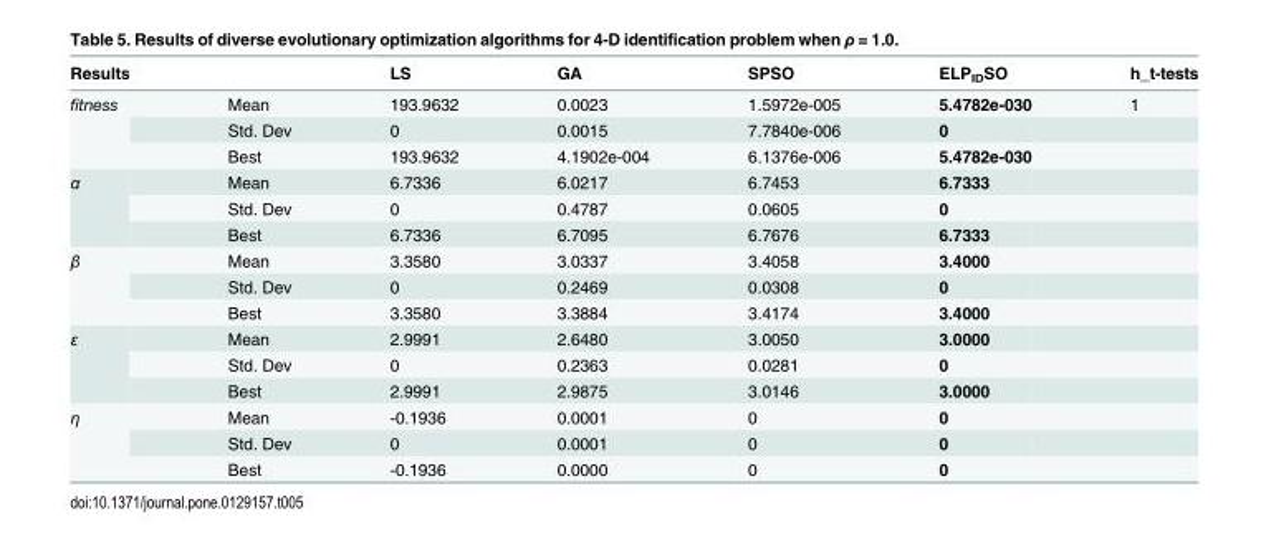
<table><thead><tr><td>Results</td><td></td><td>LS</td><td>GA</td><td>SPSO</td><td>ELP<sub>ID</sub>SO</td><td>h_t-tests</td></tr></thead><tbody><tr><td rowspan="3">fitness</td><td>Mean</td><td>193.9632</td><td>0.0023</td><td>1.5972e-005</td><td>5.4782e-030</td><td>1</td></tr><tr><td>Std. Dev</td><td>0</td><td>0.0015</td><td>7.7840e-006</td><td>0</td><td></td></tr><tr><td>Best</td><td>193.9632</td><td>4.1902e-004</td><td>6.1376e-006</td><td>5.4782e-030</td><td></td></tr><tr><td rowspan="3">α</td><td>Mean</td><td>6.7336</td><td>6.0217</td><td>6.7453</td><td>6.7333</td><td></td></tr><tr><td>Std. Dev</td><td>0</td><td>0.4787</td><td>0.0605</td><td>0</td><td></td></tr><tr><td>Best</td><td>6.7336</td><td>6.7095</td><td>6.7676</td><td>6.7333</td><td></td></tr><tr><td rowspan="3">β</td><td>Mean</td><td>3.3580</td><td>3.0337</td><td>3.4058</td><td>3.4000</td><td></td></tr><tr><td>Std. Dev</td><td>0</td><td>0.2469</td><td>0.0308</td><td>0</td><td></td></tr><tr><td>Best</td><td>3.3580</td><td>3.3884</td><td>3.4174</td><td>3.4000</td><td></td></tr><tr><td rowspan="3">ε</td><td>Mean</td><td>2.9991</td><td>2.6480</td><td>3.0050</td><td>3.0000</td><td></td></tr><tr><td>Std. Dev</td><td>0</td><td>0.2363</td><td>0.0281</td><td>0</td><td></td></tr><tr><td>Best</td><td>2.9991</td><td>2.9875</td><td>3.0146</td><td>3.0000</td><td></td></tr><tr><td rowspan="3">η</td><td>Mean</td><td>-0.1936</td><td>0.0001</td><td>0</td><td>0</td><td></td></tr><tr><td>Std. Dev</td><td>0</td><td>0.0001</td><td>0</td><td>0</td><td></td></tr><tr><td>Best</td><td>-0.1936</td><td>0.0000</td><td>0</td><td>0</td><td></td></tr></tbody></table>